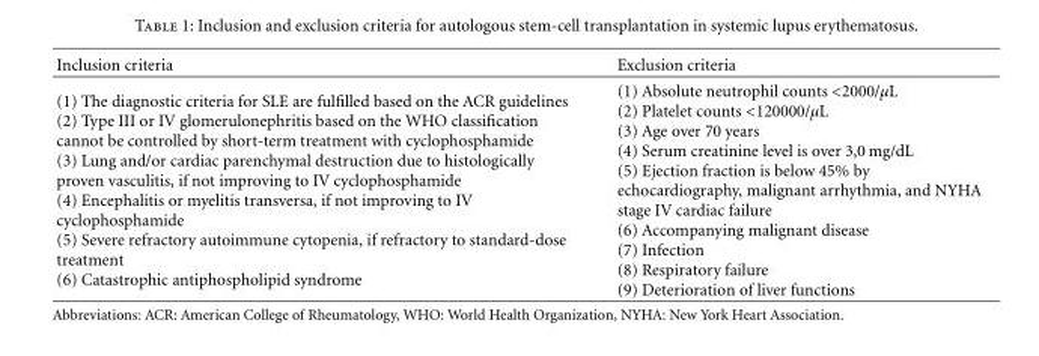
<table><thead><tr><td>Inclusion criteria</td><td>Exclusion criteria</td></tr></thead><tbody><tr><td>(1) The diagnostic criteria for SLE are fulfilled based on the ACR guidelines (2) Type III or IV glomerulonephritis based on the WHO classification cannot be controlled by short-term treatment with cyclophosphamide (3) Lung and/or cardiac parenchymal destruction due to histologically proven vasculitis, if not improving to IV cyclophosphamide (4) Encephalitis or myelitis transversa, if not improving to IV cyclophosphamide (5) Severe refractory autoimmune cytopenia, if refractory to standard-dose treatment (6) Catastrophic antiphospholipid syndrome</td><td>(1) Absolute neutrophil counts &lt;2000/µL (2) Platelet counts &lt;120000/µL (3) Age over 70 years (4) Serum creatinine level is over 3,0 mg/dL (5) Ejection fraction is below 45% by echocardiography, malignant arrhythmia, and NYHA stage IV cardiac failure (6) Accompanying malignant disease (7) Infection (8) Respiratory failure (9) Deterioration of liver functions</td></tr></tbody></table>